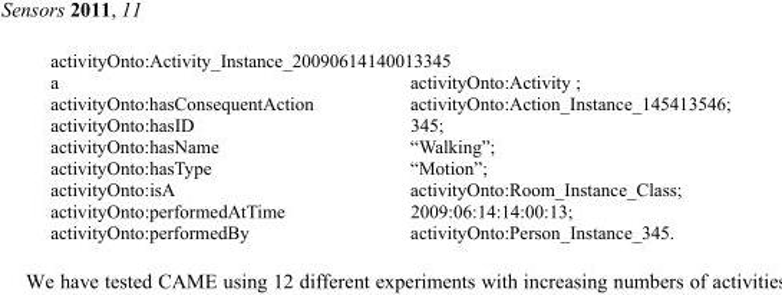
<table><tbody><tr><td colspan="2">activityOnto:Activity_Instance_20090614140013345</td></tr><tr><td>a</td><td>activityOnto:Activity ;</td></tr><tr><td>activityOnto:hasConsequentAction</td><td>activityOnto:Action_Instance_145413546;</td></tr><tr><td>activityOnto:hasID</td><td>345;</td></tr><tr><td>activityOnto:hasName</td><td>“Walking”;</td></tr><tr><td>activityOnto:hasType</td><td>“Motion”;</td></tr><tr><td>activityOnto:isA</td><td>activityOnto:Room_Instance_Class;</td></tr><tr><td>activityOnto:performedAtTime</td><td>2009:06:14:14:00:13;</td></tr><tr><td>activityOnto:performedBy</td><td>activityOnto:Person_Instance_345.</td></tr></tbody></table>